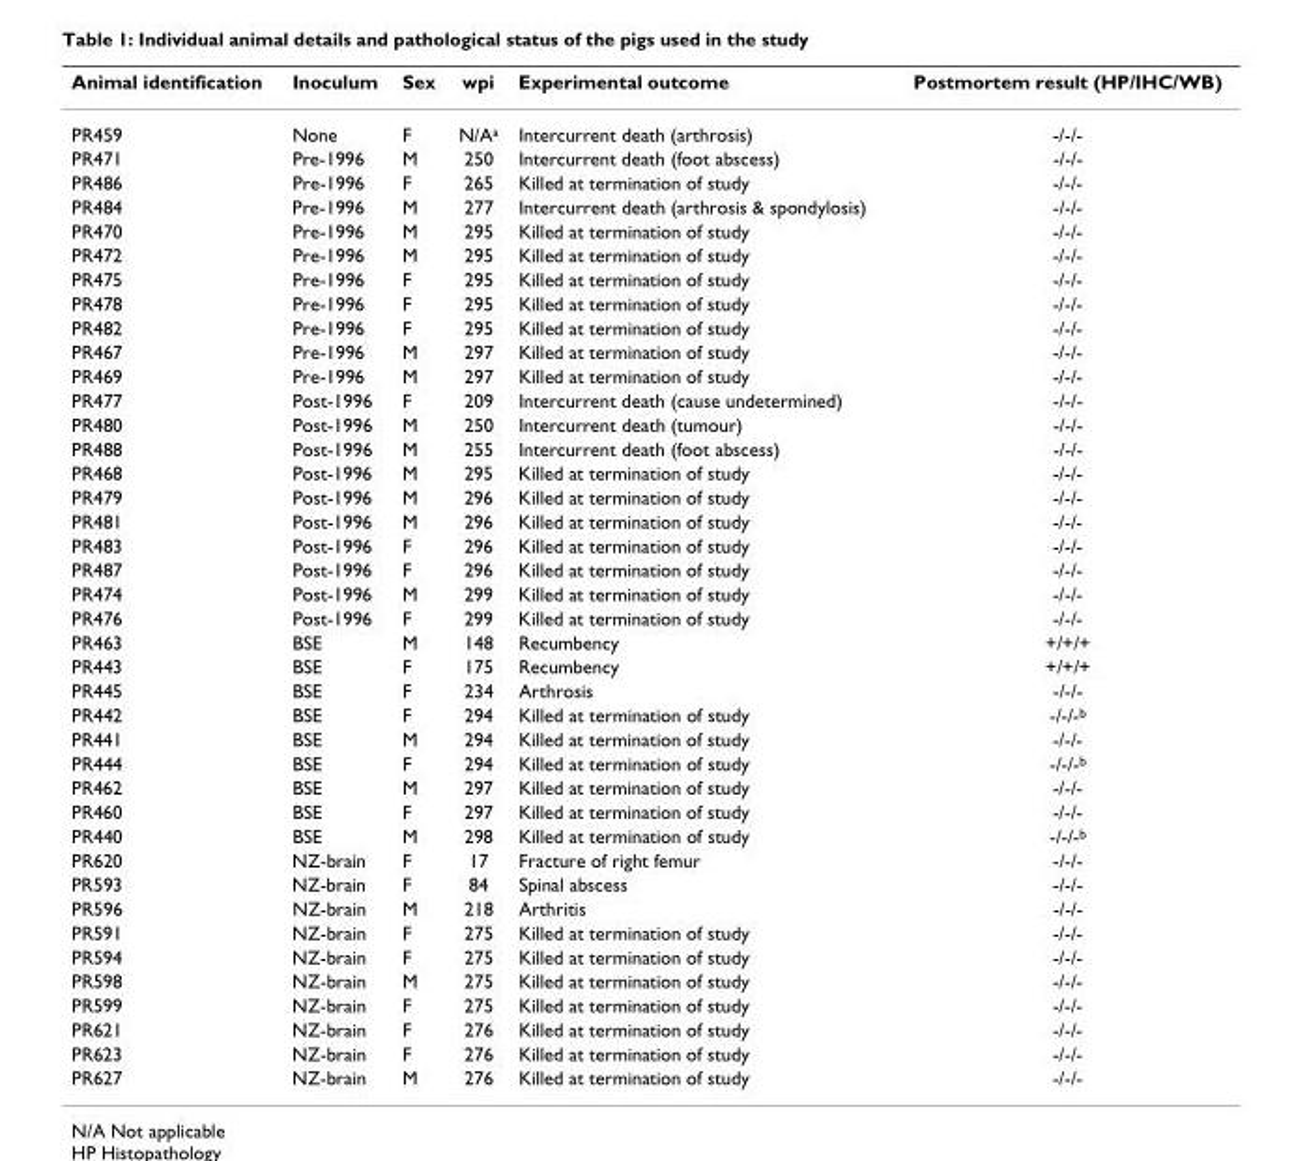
<table><thead><tr><td>Animal identification</td><td>Inoculum</td><td>Sex</td><td>wpi</td><td>Experimental outcome</td><td>Postmortem result (HP/IHC/WB)</td></tr></thead><tbody><tr><td>PR459</td><td>None</td><td>F</td><td>N/A<sup>a</sup></td><td>Intercurrent death (arthrosis)</td><td>-/-/-</td></tr><tr><td>PR471</td><td>Pre-1996</td><td>M</td><td>250</td><td>Intercurrent death (foot abscess)</td><td>-/-/-</td></tr><tr><td>PR486</td><td>Pre-1996</td><td>F</td><td>265</td><td>Killed at termination of study</td><td>-/-/-</td></tr><tr><td>PR484</td><td>Pre-1996</td><td>M</td><td>277</td><td>Intercurrent death (arthrosis &amp; spondylosis)</td><td>-/-/-</td></tr><tr><td>PR470</td><td>Pre-1996</td><td>M</td><td>295</td><td>Killed at termination of study</td><td>-/-/-</td></tr><tr><td>PR472</td><td>Pre-1996</td><td>M</td><td>295</td><td>Killed at termination of study</td><td>-/-/-</td></tr><tr><td>PR475</td><td>Pre-1996</td><td>F</td><td>295</td><td>Killed at termination of study</td><td>-/-/-</td></tr><tr><td>PR478</td><td>Pre-1996</td><td>F</td><td>295</td><td>Killed at termination of study</td><td>-/-/-</td></tr><tr><td>PR482</td><td>Pre-1996</td><td>F</td><td>295</td><td>Killed at termination of study</td><td>-/-/-</td></tr><tr><td>PR467</td><td>Pre-1996</td><td>M</td><td>297</td><td>Killed at termination of study</td><td>-/-/-</td></tr><tr><td>PR469</td><td>Pre-1996</td><td>M</td><td>297</td><td>Killed at termination of study</td><td>-/-/-</td></tr><tr><td>PR477</td><td>Post-1996</td><td>F</td><td>209</td><td>Intercurrent death (cause undetermined)</td><td>-/-/-</td></tr><tr><td>PR480</td><td>Post-1996</td><td>M</td><td>250</td><td>Intercurrent death (tumour)</td><td>-/-/-</td></tr><tr><td>PR488</td><td>Post-1996</td><td>M</td><td>255</td><td>Intercurrent death (foot abscess)</td><td>-/-/-</td></tr><tr><td>PR468</td><td>Post-1996</td><td>M</td><td>295</td><td>Killed at termination of study</td><td>-/-/-</td></tr><tr><td>PR479</td><td>Post-1996</td><td>M</td><td>296</td><td>Killed at termination of study</td><td>-/-/-</td></tr><tr><td>PR481</td><td>Post-1996</td><td>M</td><td>296</td><td>Killed at termination of study</td><td>-/-/-</td></tr><tr><td>PR483</td><td>Post-1996</td><td>F</td><td>296</td><td>Killed at termination of study</td><td>-/-/-</td></tr><tr><td>PR487</td><td>Post-1996</td><td>F</td><td>296</td><td>Killed at termination of study</td><td>-/-/-</td></tr><tr><td>PR474</td><td>Post-1996</td><td>M</td><td>299</td><td>Killed at termination of study</td><td>-/-/-</td></tr><tr><td>PR476</td><td>Post-1996</td><td>F</td><td>299</td><td>Killed at termination of study</td><td>-/-/-</td></tr><tr><td>PR463</td><td>BSE</td><td>M</td><td>148</td><td>Recumbency</td><td>+/+/+</td></tr><tr><td>PR443</td><td>BSE</td><td>F</td><td>175</td><td>Recumbency</td><td>+/+/+</td></tr><tr><td>PR445</td><td>BSE</td><td>F</td><td>234</td><td>Arthrosis</td><td>-/-/-</td></tr><tr><td>PR442</td><td>BSE</td><td>F</td><td>294</td><td>Killed at termination of study</td><td>-/-/-<sup>b</sup></td></tr><tr><td>PR441</td><td>BSE</td><td>M</td><td>294</td><td>Killed at termination of study</td><td>-/-/-</td></tr><tr><td>PR444</td><td>BSE</td><td>F</td><td>294</td><td>Killed at termination of study</td><td>-/-/-<sup>b</sup></td></tr><tr><td>PR462</td><td>BSE</td><td>M</td><td>297</td><td>Killed at termination of study</td><td>-/-/-</td></tr><tr><td>PR460</td><td>BSE</td><td>F</td><td>297</td><td>Killed at termination of study</td><td>-/-/-</td></tr><tr><td>PR440</td><td>BSE</td><td>M</td><td>298</td><td>Killed at termination of study</td><td>-/-/-<sup>b</sup></td></tr><tr><td>PR620</td><td>NZ-brain</td><td>F</td><td>17</td><td>Fracture of right femur</td><td>-/-/-</td></tr><tr><td>PR593</td><td>NZ-brain</td><td>F</td><td>84</td><td>Spinal abscess</td><td>-/-/-</td></tr><tr><td>PR596</td><td>NZ-brain</td><td>M</td><td>218</td><td>Arthritis</td><td>-/-/-</td></tr><tr><td>PR591</td><td>NZ-brain</td><td>F</td><td>275</td><td>Killed at termination of study</td><td>-/-/-</td></tr><tr><td>PR594</td><td>NZ-brain</td><td>F</td><td>275</td><td>Killed at termination of study</td><td>-/-/-</td></tr><tr><td>PR598</td><td>NZ-brain</td><td>M</td><td>275</td><td>Killed at termination of study</td><td>-/-/-</td></tr><tr><td>PR599</td><td>NZ-brain</td><td>F</td><td>275</td><td>Killed at termination of study</td><td>-/-/-</td></tr><tr><td>PR621</td><td>NZ-brain</td><td>F</td><td>276</td><td>Killed at termination of study</td><td>-/-/-</td></tr><tr><td>PR623</td><td>NZ-brain</td><td>F</td><td>276</td><td>Killed at termination of study</td><td>-/-/-</td></tr><tr><td>PR627</td><td>NZ-brain</td><td>M</td><td>276</td><td>Killed at termination of study</td><td>-/-/-</td></tr></tbody></table>